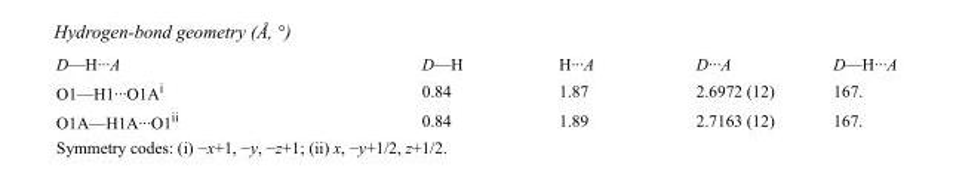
<table><tbody><tr><td>D—H···A</td><td>D—H</td><td>H···A</td><td>D···A</td><td>D—H···A</td></tr><tr><td>O1—H1···O1A<sup>i</sup></td><td>0.84</td><td>1.87</td><td>2.6972 (12)</td><td>167.</td></tr><tr><td>O1A—H1A···O1<sup>ii</sup></td><td>0.84</td><td>1.89</td><td>2.7163 (12)</td><td>167.</td></tr></tbody></table>